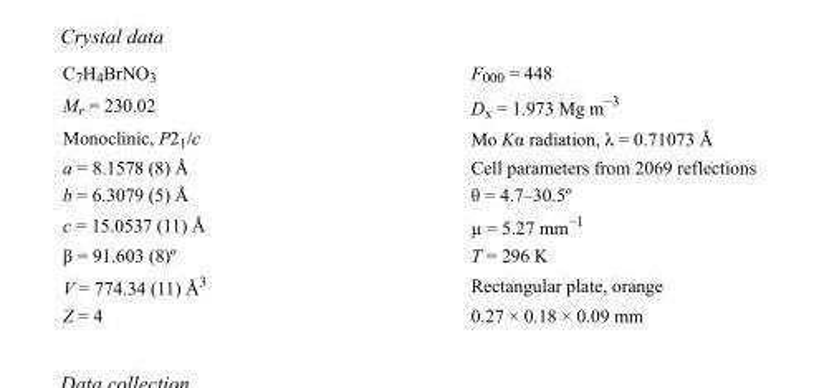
<table><tbody><tr><td>C<sub>7</sub>H<sub>4</sub>BrNO<sub>3</sub></td><td>F000 = 448</td></tr><tr><td>M<sub>r</sub> = 230.02</td><td>D<sub>x</sub> = 1.973 Mg m<sup>−3</sup></td></tr><tr><td>Monoclinic, P2<sub>1</sub>/c</td><td>Mo Kα radiation, λ = 0.71073 Å</td></tr><tr><td>a = 8.1578 (8) Å</td><td>Cell parameters from 2069 reflections</td></tr><tr><td>b = 6.3079 (5) Å</td><td>θ = 4.7–30.5º</td></tr><tr><td>c = 15.0537 (11) Å</td><td>µ = 5.27 mm<sup>−1</sup></td></tr><tr><td>β = 91.603 (8)º</td><td>T = 296 K</td></tr><tr><td>V = 774.34 (11) Å<sup>3</sup></td><td>Rectangular plate, orange</td></tr><tr><td>Z = 4</td><td>0.27 × 0.18 × 0.09 mm</td></tr></tbody></table>